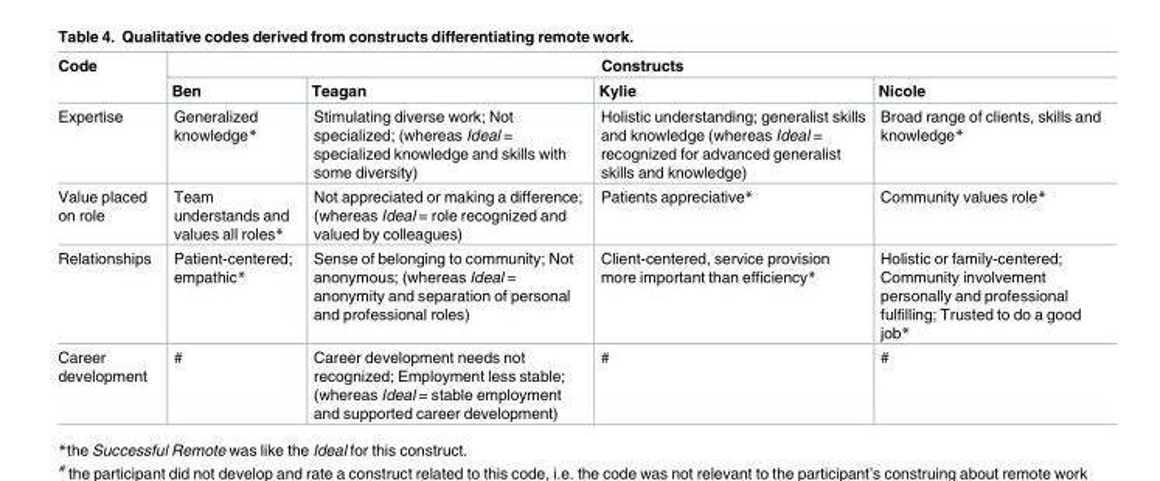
<table><thead><tr><td rowspan="2">Code</td><td colspan="4">Constructs</td></tr><tr><td>Ben</td><td>Teagan</td><td>Kylie</td><td>Nicole</td></tr></thead><tbody><tr><td>Expertise</td><td>Generalized knowledge*</td><td>Stimulating diverse work; Not specialized; (whereas Ideal = specialized knowledge and skills with some diversity)</td><td>Holistic understanding; generalist skills and knowledge (whereas Ideal = recognized for advanced generalist skills and knowledge)</td><td>Broad range of clients, skills and knowledge*</td></tr><tr><td>Value placed on role</td><td>Team understands and values all roles*</td><td>Not appreciated or making a difference; (whereas Ideal = role recognized and valued by colleagues)</td><td>Patients appreciative*</td><td>Community values role*</td></tr><tr><td>Relationships</td><td>Patient-centered; empathic*</td><td>Sense of belonging to community; Not anonymous; (whereas Ideal = anonymity and separation of personal and professional roles)</td><td>Client-centered, service provision more important than efficiency*</td><td>Holistic or family-centered; Community involvement personally and professional fulfilling; Trusted to do a good job*</td></tr><tr><td>Career development</td><td>#</td><td>Career development needs not recognized; Employment less stable; (whereas Ideal = stable employment and supported career development)</td><td>#</td><td>#</td></tr></tbody></table>